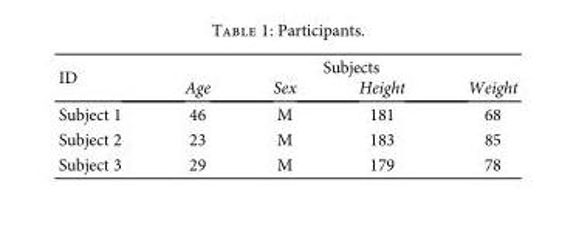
<table><thead><tr><td rowspan="2">ID</td><td colspan="4">Subjects</td></tr><tr><td>Age</td><td>Sex</td><td>Height</td><td>Weight</td></tr></thead><tbody><tr><td>Subject 1</td><td>46</td><td>M</td><td>181</td><td>68</td></tr><tr><td>Subject 2</td><td>23</td><td>M</td><td>183</td><td>85</td></tr><tr><td>Subject 3</td><td>29</td><td>M</td><td>179</td><td>78</td></tr></tbody></table>